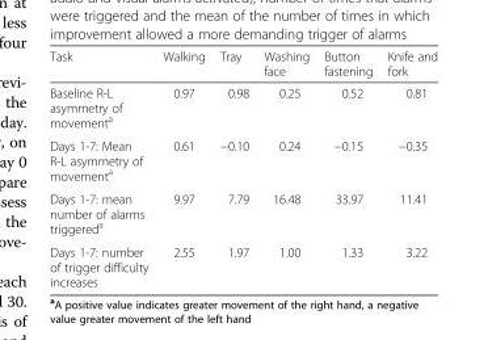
<table><thead><tr><td>Task</td><td>Walking</td><td>Tray</td><td>Washing face</td><td>Button fastening</td><td>Knife and fork</td></tr></thead><tbody><tr><td>Baseline R-L asymmetry of movement<sup>a</sup></td><td>0.97</td><td>0.98</td><td>0.25</td><td>0.52</td><td>0.81</td></tr><tr><td>Days 1-7: Mean R-L asymmetry of movement<sup>a</sup></td><td>0.61</td><td>−0.10</td><td>0.24</td><td>−0.15</td><td>−0.35</td></tr><tr><td>Days 1-7: mean number of alarms triggered<sup>a</sup></td><td>9.97</td><td>7.79</td><td>16.48</td><td>33.97</td><td>11.41</td></tr><tr><td>Days 1-7: number of trigger difficulty increases</td><td>2.55</td><td>1.97</td><td>1.00</td><td>1.33</td><td>3.22</td></tr></tbody></table>